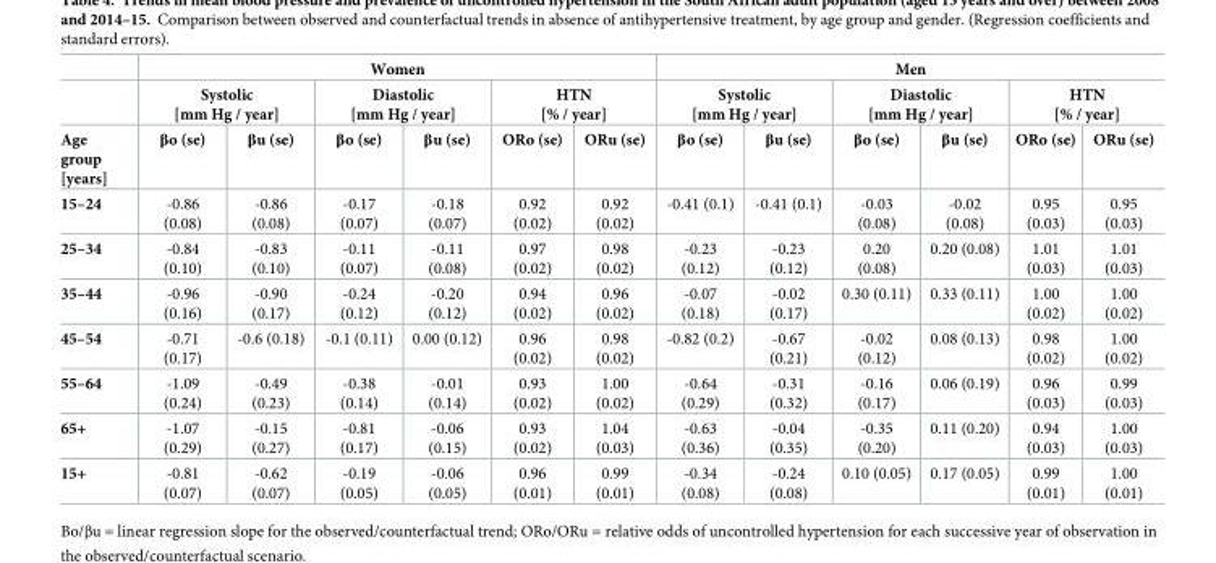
<table><thead><tr><td rowspan="3">Age group [years]</td><td colspan="6">Women</td><td colspan="6">Men</td></tr><tr><td colspan="2">Systolic [mm Hg / year]</td><td colspan="2">Diastolic [mm Hg / year]</td><td colspan="2">HTN [% / year]</td><td colspan="2">Systolic [mm Hg / year]</td><td colspan="2">Diastolic [mm Hg / year]</td><td colspan="2">HTN [% / year]</td></tr><tr><td>βo (se)</td><td>βu (se)</td><td>βo (se)</td><td>βu (se)</td><td>ORo (se)</td><td>ORu (se)</td><td>βo (se)</td><td>βu (se)</td><td>βo (se)</td><td>βu (se)</td><td>ORo (se)</td><td>ORu (se)</td></tr></thead><tbody><tr><td>15–24</td><td>-0.86 (0.08)</td><td>-0.86 (0.08)</td><td>-0.17 (0.07)</td><td>-0.18 (0.07)</td><td>0.92 (0.02)</td><td>0.92 (0.02)</td><td>-0.41 (0.1)</td><td>-0.41 (0.1)</td><td>-0.03 (0.08)</td><td>-0.02 (0.08)</td><td>0.95 (0.03)</td><td>0.95 (0.03)</td></tr><tr><td>25–34</td><td>-0.84 (0.10)</td><td>-0.83 (0.10)</td><td>-0.11 (0.07)</td><td>-0.11 (0.08)</td><td>0.97 (0.02)</td><td>0.98 (0.02)</td><td>-0.23 (0.12)</td><td>-0.23 (0.12)</td><td>0.20 (0.08)</td><td>0.20 (0.08)</td><td>1.01 (0.03)</td><td>1.01 (0.03)</td></tr><tr><td>35–44</td><td>-0.96 (0.16)</td><td>-0.90 (0.17)</td><td>-0.24 (0.12)</td><td>-0.20 (0.12)</td><td>0.94 (0.02)</td><td>0.96 (0.02)</td><td>-0.07 (0.18)</td><td>-0.02 (0.17)</td><td>0.30 (0.11)</td><td>0.33 (0.11)</td><td>1.00 (0.02)</td><td>1.00 (0.02)</td></tr><tr><td>45–54</td><td>-0.71 (0.17)</td><td>-0.6 (0.18)</td><td>-0.1 (0.11)</td><td>0.00 (0.12)</td><td>0.96 (0.02)</td><td>0.98 (0.02)</td><td>-0.82 (0.2)</td><td>-0.67 (0.21)</td><td>-0.02 (0.12)</td><td>0.08 (0.13)</td><td>0.98 (0.02)</td><td>1.00 (0.02)</td></tr><tr><td>55–64</td><td>-1.09 (0.24)</td><td>-0.49 (0.23)</td><td>-0.38 (0.14)</td><td>-0.01 (0.14)</td><td>0.93 (0.02)</td><td>1.00 (0.02)</td><td>-0.64 (0.29)</td><td>-0.31 (0.32)</td><td>-0.16 (0.17)</td><td>0.06 (0.19)</td><td>0.96 (0.03)</td><td>0.99 (0.03)</td></tr><tr><td>65+</td><td>-1.07 (0.29)</td><td>-0.15 (0.27)</td><td>-0.81 (0.17)</td><td>-0.06 (0.15)</td><td>0.93 (0.02)</td><td>1.04 (0.03)</td><td>-0.63 (0.36)</td><td>-0.04 (0.35)</td><td>-0.35 (0.20)</td><td>0.11 (0.20)</td><td>0.94 (0.03)</td><td>1.00 (0.03)</td></tr><tr><td>15+</td><td>-0.81 (0.07)</td><td>-0.62 (0.07)</td><td>-0.19 (0.05)</td><td>-0.06 (0.05)</td><td>0.96 (0.01)</td><td>0.99 (0.01)</td><td>-0.34 (0.08)</td><td>-0.24 (0.08)</td><td>0.10 (0.05)</td><td>0.17 (0.05)</td><td>0.99 (0.01)</td><td>1.00 (0.01)</td></tr></tbody></table>